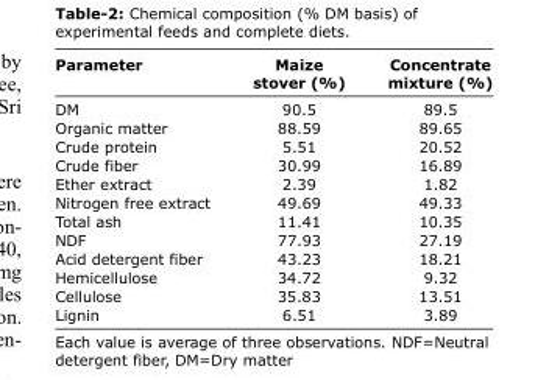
<table><thead><tr><td>Parameter</td><td>Maize stover (%)</td><td>Concentrate mixture (%)</td></tr></thead><tbody><tr><td>DM</td><td>90.5</td><td>89.5</td></tr><tr><td>Organic matter</td><td>88.59</td><td>89.65</td></tr><tr><td>Crude protein</td><td>5.51</td><td>20.52</td></tr><tr><td>Crude fiber</td><td>30.99</td><td>16.89</td></tr><tr><td>Ether extract</td><td>2.39</td><td>1.82</td></tr><tr><td>Nitrogen free extract</td><td>49.69</td><td>49.33</td></tr><tr><td>Total ash</td><td>11.41</td><td>10.35</td></tr><tr><td>NDF</td><td>77.93</td><td>27.19</td></tr><tr><td>Acid detergent fiber</td><td>43.23</td><td>18.21</td></tr><tr><td>Hemicellulose</td><td>34.72</td><td>9.32</td></tr><tr><td>Cellulose</td><td>35.83</td><td>13.51</td></tr><tr><td>Lignin</td><td>6.51</td><td>3.89</td></tr></tbody></table>